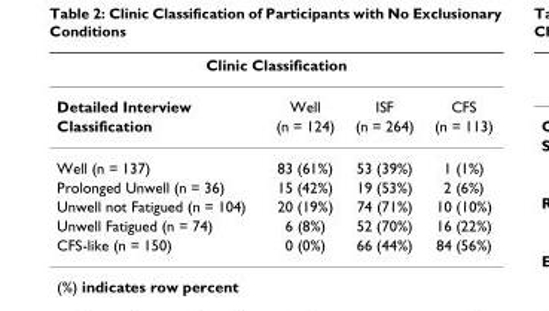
<table><thead><tr><td colspan="4">Clinic Classification</td></tr><tr><td>Detailed Interview</td><td>Well</td><td>ISF</td><td>CFS</td></tr></thead><tbody><tr><td>Classification</td><td>(n = 124)</td><td>(n = 264)</td><td>(n = 113)</td></tr><tr><td>Well (n = 137)</td><td>83 (61%)</td><td>53 (39%)</td><td>1 (1%)</td></tr><tr><td>Prolonged Unwell (n = 36)</td><td>15 (42%)</td><td>19 (53%)</td><td>2 (6%)</td></tr><tr><td>Unwell not Fatigued (n = 104)</td><td>20 (19%)</td><td>74 (71%)</td><td>10 (10%)</td></tr><tr><td>Unwell Fatigued (n = 74)</td><td>6 (8%)</td><td>52 (70%)</td><td>16 (22%)</td></tr><tr><td>CFS-like (n = 150)</td><td>0 (0%)</td><td>66 (44%)</td><td>84 (56%)</td></tr></tbody></table>